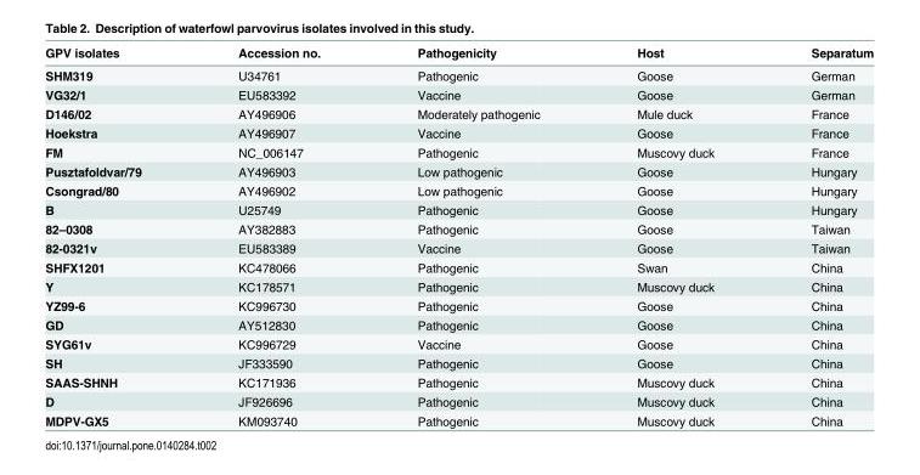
<table><thead><tr><td>GPV isolates</td><td>Accession no.</td><td>Pathogenicity</td><td>Host</td><td>Separatum</td></tr></thead><tbody><tr><td>SHM319</td><td>U34761</td><td>Pathogenic</td><td>Goose</td><td>German</td></tr><tr><td>VG32/1</td><td>EU583392</td><td>Vaccine</td><td>Goose</td><td>German</td></tr><tr><td>D146/02</td><td>AY496906</td><td>Moderately pathogenic</td><td>Mule duck</td><td>France</td></tr><tr><td>Hoekstra</td><td>AY496907</td><td>Vaccine</td><td>Goose</td><td>France</td></tr><tr><td>FM</td><td>NC_006147</td><td>Pathogenic</td><td>Muscovy duck</td><td>France</td></tr><tr><td>Pusztafoldvar/79</td><td>AY496903</td><td>Low pathogenic</td><td>Goose</td><td>Hungary</td></tr><tr><td>Csongrad/80</td><td>AY496902</td><td>Low pathogenic</td><td>Goose</td><td>Hungary</td></tr><tr><td>B</td><td>U25749</td><td>Pathogenic</td><td>Goose</td><td>Hungary</td></tr><tr><td>82–0308</td><td>AY382883</td><td>Pathogenic</td><td>Goose</td><td>Taiwan</td></tr><tr><td>82-0321v</td><td>EU583389</td><td>Vaccine</td><td>Goose</td><td>Taiwan</td></tr><tr><td>SHFX1201</td><td>KC478066</td><td>Pathogenic</td><td>Swan</td><td>China</td></tr><tr><td>Y</td><td>KC178571</td><td>Pathogenic</td><td>Muscovy duck</td><td>China</td></tr><tr><td>YZ99-6</td><td>KC996730</td><td>Pathogenic</td><td>Goose</td><td>China</td></tr><tr><td>GD</td><td>AY512830</td><td>Pathogenic</td><td>Goose</td><td>China</td></tr><tr><td>SYG61v</td><td>KC996729</td><td>Vaccine</td><td>Goose</td><td>China</td></tr><tr><td>SH</td><td>JF333590</td><td>Pathogenic</td><td>Goose</td><td>China</td></tr><tr><td>SAAS-SHNH</td><td>KC171936</td><td>Pathogenic</td><td>Muscovy duck</td><td>China</td></tr><tr><td>D</td><td>JF926696</td><td>Pathogenic</td><td>Muscovy duck</td><td>China</td></tr><tr><td>MDPV-GX5</td><td>KM093740</td><td>Pathogenic</td><td>Muscovy duck</td><td>China</td></tr></tbody></table>